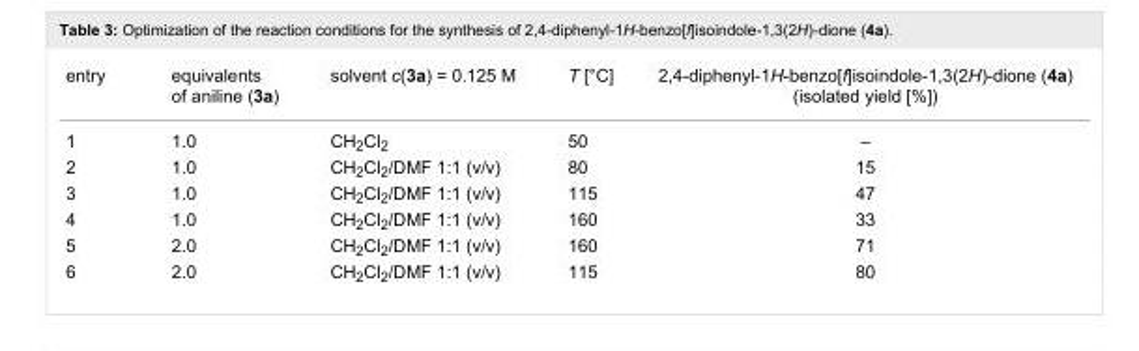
<table><tbody><tr><td>entry</td><td>equivalents of aniline (3a)</td><td>solvent c(3a) = 0.125 M</td><td>T [°C]</td><td>2,4-diphenyl-1H-benzo[f]isoindole-1,3(2H)-dione (4a) (isolated yield [%])</td></tr><tr><td>1</td><td>1.0</td><td>CH<sub>2</sub>Cl<sub>2</sub></td><td>50</td><td>–</td></tr><tr><td>2</td><td>1.0</td><td>CH<sub>2</sub>Cl<sub>2</sub>/DMF 1:1 (v/v)</td><td>80</td><td>15</td></tr><tr><td>3</td><td>1.0</td><td>CH<sub>2</sub>Cl<sub>2</sub>/DMF 1:1 (v/v)</td><td>115</td><td>47</td></tr><tr><td>4</td><td>1.0</td><td>CH<sub>2</sub>Cl<sub>2</sub>/DMF 1:1 (v/v)</td><td>160</td><td>33</td></tr><tr><td>5</td><td>2.0</td><td>CH<sub>2</sub>Cl<sub>2</sub>/DMF 1:1 (v/v)</td><td>160</td><td>71</td></tr><tr><td>6</td><td>2.0</td><td>CH<sub>2</sub>Cl<sub>2</sub>/DMF 1:1 (v/v)</td><td>115</td><td>80</td></tr></tbody></table>